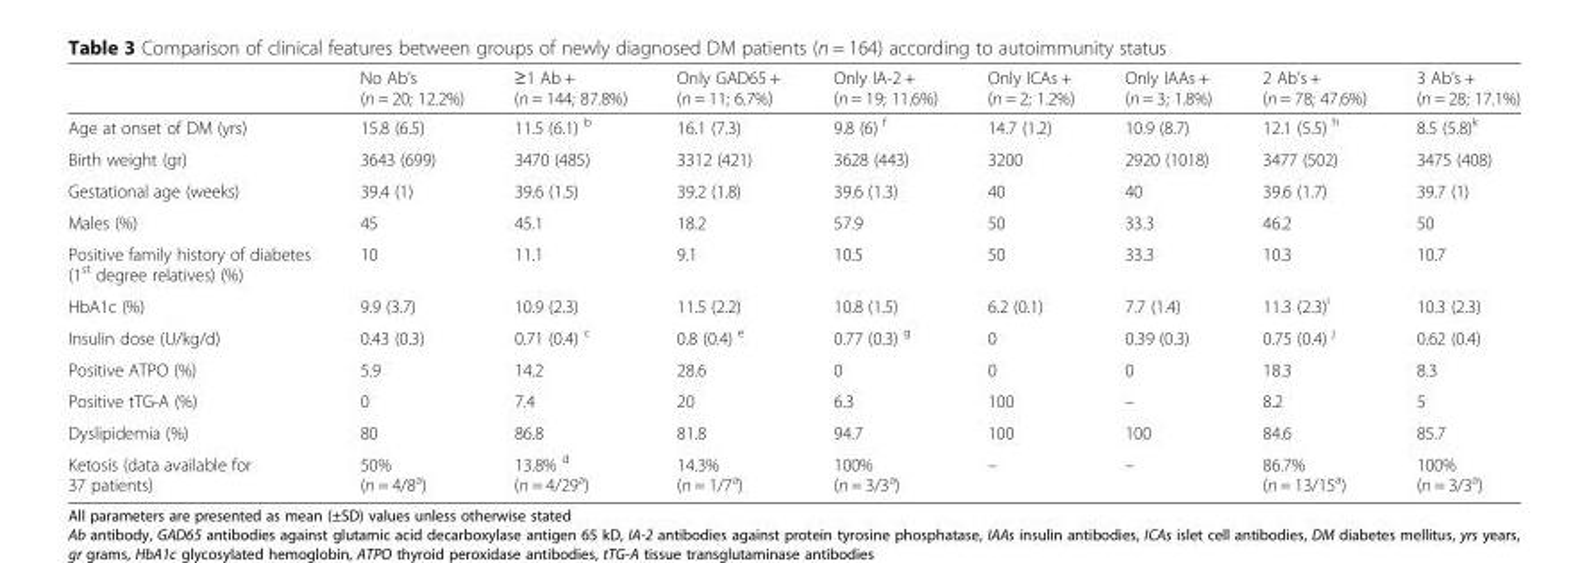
<table><thead><tr><td></td><td>No Ab’s (n = 20; 12.2%)</td><td>≥1 Ab + (n = 144; 87.8%)</td><td>Only GAD65 + (n = 11; 6.7%)</td><td>Only IA-2 + (n = 19; 11.6%)</td><td>Only ICAs + (n = 2; 1.2%)</td><td>Only IAAs + (n = 3; 1.8%)</td><td>2 Ab’s + (n = 78; 47.6%)</td><td>3 Ab’s + (n = 28; 17.1%)</td></tr></thead><tbody><tr><td>Age at onset of DM (yrs)</td><td>15.8 (6.5)</td><td>11.5 (6.1) <sup>b</sup></td><td>16.1 (7.3)</td><td>9.8 (6) <sup>f</sup></td><td>14.7 (1.2)</td><td>10.9 (8.7)</td><td>12.1 (5.5) <sup>h</sup></td><td>8.5 (5.8)<sup>k</sup></td></tr><tr><td>Birth weight (gr)</td><td>3643 (699)</td><td>3470 (485)</td><td>3312 (421)</td><td>3628 (443)</td><td>3200</td><td>2920 (1018)</td><td>3477 (502)</td><td>3475 (408)</td></tr><tr><td>Gestational age (weeks)</td><td>39.4 (1)</td><td>39.6 (1.5)</td><td>39.2 (1.8)</td><td>39.6 (1.3)</td><td>40</td><td>40</td><td>39.6 (1.7)</td><td>39.7 (1)</td></tr><tr><td>Males (%)</td><td>45</td><td>45.1</td><td>18.2</td><td>57.9</td><td>50</td><td>33.3</td><td>46.2</td><td>50</td></tr><tr><td>Positive family history of diabetes (1<sup>st</sup> degree relatives) (%)</td><td>10</td><td>11.1</td><td>9.1</td><td>10.5</td><td>50</td><td>33.3</td><td>10.3</td><td>10.7</td></tr><tr><td>HbA1c (%)</td><td>9.9 (3.7)</td><td>10.9 (2.3)</td><td>11.5 (2.2)</td><td>10.8 (1.5)</td><td>6.2 (0.1)</td><td>7.7 (1.4)</td><td>11.3 (2.3)<sup>i</sup></td><td>10.3 (2.3)</td></tr><tr><td>Insulin dose (U/kg/d)</td><td>0.43 (0.3)</td><td>0.71 (0.4) <sup>c</sup></td><td>0.8 (0.4) <sup>e</sup></td><td>0.77 (0.3) <sup>g</sup></td><td>0</td><td>0.39 (0.3)</td><td>0.75 (0.4) <sup>j</sup></td><td>0.62 (0.4)</td></tr><tr><td>Positive ATPO (%)</td><td>5.9</td><td>14.2</td><td>28.6</td><td>0</td><td>0</td><td>0</td><td>18.3</td><td>8.3</td></tr><tr><td>Positive tTG-A (%)</td><td>0</td><td>7.4</td><td>20</td><td>6.3</td><td>100</td><td>–</td><td>8.2</td><td>5</td></tr><tr><td>Dyslipidemia (%)</td><td>80</td><td>86.8</td><td>81.8</td><td>94.7</td><td>100</td><td>100</td><td>84.6</td><td>85.7</td></tr><tr><td>Ketosis (data available for 37 patients)</td><td>50% (n = 4/8<sup>a</sup>)</td><td>13.8% <sup>d</sup> (n = 4/29<sup>a</sup>)</td><td>14.3% (n = 1/7<sup>a</sup>)</td><td>100% (n = 3/3<sup>a</sup>)</td><td>–</td><td>–</td><td>86.7% (n = 13/15<sup>a</sup>)</td><td>100% (n = 3/3<sup>a</sup>)</td></tr></tbody></table>